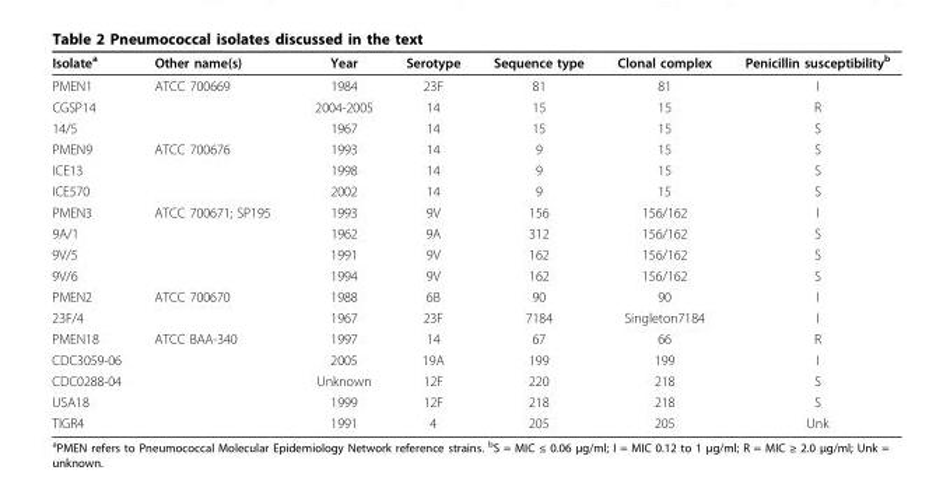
<table><thead><tr><td>Isolate<sup>a</sup></td><td>Other name(s)</td><td>Year</td><td>Serotype</td><td>Sequence type</td><td>Clonal complex</td><td>Penicillin susceptibility<sup>b</sup></td></tr></thead><tbody><tr><td>PMEN1</td><td>ATCC 700669</td><td>1984</td><td>23F</td><td>81</td><td>81</td><td>I</td></tr><tr><td>CGSP14</td><td></td><td>2004-2005</td><td>14</td><td>15</td><td>15</td><td>R</td></tr><tr><td>14/5</td><td></td><td>1967</td><td>14</td><td>15</td><td>15</td><td>S</td></tr><tr><td>PMEN9</td><td>ATCC 700676</td><td>1993</td><td>14</td><td>9</td><td>15</td><td>S</td></tr><tr><td>ICE13</td><td></td><td>1998</td><td>14</td><td>9</td><td>15</td><td>S</td></tr><tr><td>ICE570</td><td></td><td>2002</td><td>14</td><td>9</td><td>15</td><td>S</td></tr><tr><td>PMEN3</td><td>ATCC 700671; SP195</td><td>1993</td><td>9V</td><td>156</td><td>156/162</td><td>I</td></tr><tr><td>9A/1</td><td></td><td>1962</td><td>9A</td><td>312</td><td>156/162</td><td>S</td></tr><tr><td>9V/5</td><td></td><td>1991</td><td>9V</td><td>162</td><td>156/162</td><td>S</td></tr><tr><td>9V/6</td><td></td><td>1994</td><td>9V</td><td>162</td><td>156/162</td><td>S</td></tr><tr><td>PMEN2</td><td>ATCC 700670</td><td>1988</td><td>6B</td><td>90</td><td>90</td><td>I</td></tr><tr><td>23F/4</td><td></td><td>1967</td><td>23F</td><td>7184</td><td>Singleton7184</td><td>I</td></tr><tr><td>PMEN18</td><td>ATCC BAA-340</td><td>1997</td><td>14</td><td>67</td><td>66</td><td>R</td></tr><tr><td>CDC3059-06</td><td></td><td>2005</td><td>19A</td><td>199</td><td>199</td><td>I</td></tr><tr><td>CDC0288-04</td><td></td><td>Unknown</td><td>12F</td><td>220</td><td>218</td><td>S</td></tr><tr><td>USA18</td><td></td><td>1999</td><td>12F</td><td>218</td><td>218</td><td>S</td></tr><tr><td>TIGR4</td><td></td><td>1991</td><td>4</td><td>205</td><td>205</td><td>Unk</td></tr></tbody></table>